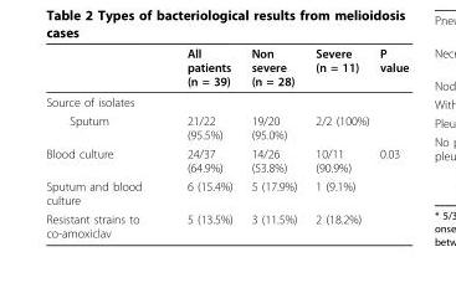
<table><thead><tr><td></td><td>All patients (n = 39)</td><td>Non severe (n = 28)</td><td>Severe (n = 11)</td><td>P value</td></tr></thead><tbody><tr><td colspan="5">Source of isolates</td></tr><tr><td>Sputum</td><td>21/22 (95.5%)</td><td>19/20 (95.0%)</td><td>2/2 (100%)</td><td></td></tr><tr><td>Blood culture</td><td>24/37 (64.9%)</td><td>14/26 (53.8%)</td><td>10/11 (90.9%)</td><td>0.03</td></tr><tr><td>Sputum and blood culture</td><td>6 (15.4%)</td><td>5 (17.9%)</td><td>1 (9.1%)</td><td></td></tr><tr><td>Resistant strains to co-amoxiclav</td><td>5 (13.5%)</td><td>3 (11.5%)</td><td>2 (18.2%)</td><td></td></tr></tbody></table>